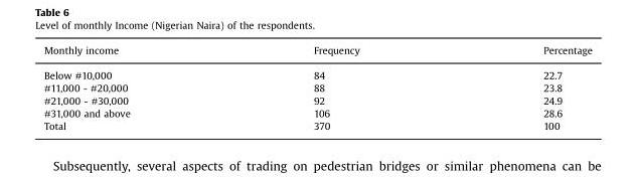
<table><thead><tr><td>Monthly income</td><td>Frequency</td><td>Percentage</td></tr></thead><tbody><tr><td>Below #10,000</td><td>84</td><td>22.7</td></tr><tr><td>#11,000 - #20,000</td><td>88</td><td>23.8</td></tr><tr><td>#21,000 - #30,000</td><td>92</td><td>24.9</td></tr><tr><td>#31,000 and above</td><td>106</td><td>28.6</td></tr><tr><td>Total</td><td>370</td><td>100</td></tr></tbody></table>